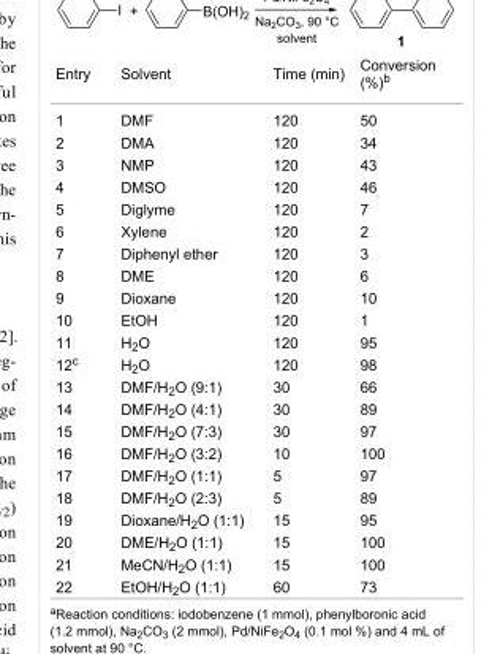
<table><tbody><tr><td>Entry</td><td>Solvent</td><td>Time (min)</td><td>Conversion (%)<sup>b</sup></td></tr><tr><td>1</td><td>DMF</td><td>120</td><td>50</td></tr><tr><td>2</td><td>DMA</td><td>120</td><td>34</td></tr><tr><td>3</td><td>NMP</td><td>120</td><td>43</td></tr><tr><td>4</td><td>DMSO</td><td>120</td><td>46</td></tr><tr><td>5</td><td>Diglyme</td><td>120</td><td>7</td></tr><tr><td>6</td><td>Xylene</td><td>120</td><td>2</td></tr><tr><td>7</td><td>Diphenyl ether</td><td>120</td><td>3</td></tr><tr><td>8</td><td>DME</td><td>120</td><td>6</td></tr><tr><td>9</td><td>Dioxane</td><td>120</td><td>10</td></tr><tr><td>10</td><td>EtOH</td><td>120</td><td>1</td></tr><tr><td>11</td><td>H<sub>2</sub>O</td><td>120</td><td>95</td></tr><tr><td>12<sup>c</sup></td><td>H<sub>2</sub>O</td><td>120</td><td>98</td></tr><tr><td>13</td><td>DMF/H<sub>2</sub>O (9:1)</td><td>30</td><td>66</td></tr><tr><td>14</td><td>DMF/H<sub>2</sub>O (4:1)</td><td>30</td><td>89</td></tr><tr><td>15</td><td>DMF/H<sub>2</sub>O (7:3)</td><td>30</td><td>97</td></tr><tr><td>16</td><td>DMF/H<sub>2</sub>O (3:2)</td><td>10</td><td>100</td></tr><tr><td>17</td><td>DMF/H<sub>2</sub>O (1:1)</td><td>5</td><td>97</td></tr><tr><td>18</td><td>DMF/H<sub>2</sub>O (2:3)</td><td>5</td><td>89</td></tr><tr><td>19</td><td>Dioxane/H<sub>2</sub>O (1:1)</td><td>15</td><td>95</td></tr><tr><td>20</td><td>DME/H<sub>2</sub>O (1:1)</td><td>15</td><td>100</td></tr><tr><td>21</td><td>MeCN/H<sub>2</sub>O (1:1)</td><td>15</td><td>100</td></tr><tr><td>22</td><td>EtOH/H<sub>2</sub>O (1:1)</td><td>60</td><td>73</td></tr></tbody></table>